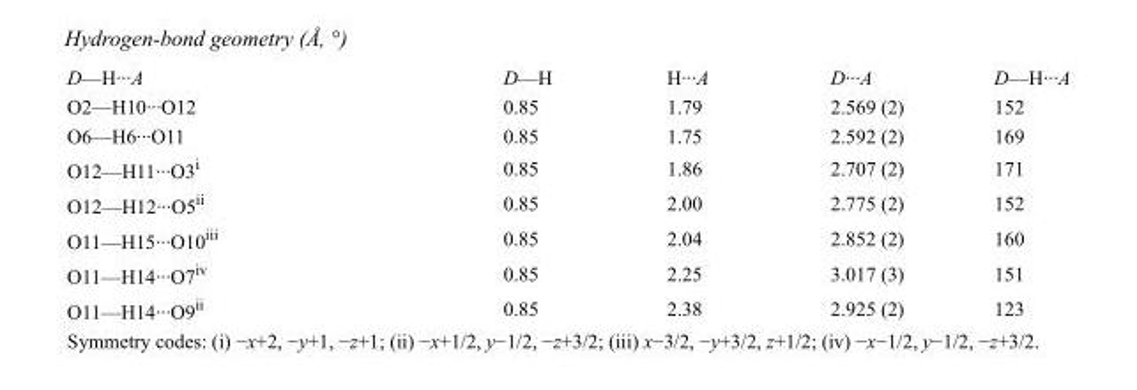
<table><tbody><tr><td>D—H···A</td><td>D—H</td><td>H···A</td><td>D···A</td><td>D—H···A</td></tr><tr><td>O2—H10···O12</td><td>0.85</td><td>1.79</td><td>2.569 (2)</td><td>152</td></tr><tr><td>O6—H6···O11</td><td>0.85</td><td>1.75</td><td>2.592 (2)</td><td>169</td></tr><tr><td>O12—H11···O3<sup>i</sup></td><td>0.85</td><td>1.86</td><td>2.707 (2)</td><td>171</td></tr><tr><td>O12—H12···O5<sup>ii</sup></td><td>0.85</td><td>2.00</td><td>2.775 (2)</td><td>152</td></tr><tr><td>O11—H15···O10<sup>iii</sup></td><td>0.85</td><td>2.04</td><td>2.852 (2)</td><td>160</td></tr><tr><td>O11—H14···O7<sup>iv</sup></td><td>0.85</td><td>2.25</td><td>3.017 (3)</td><td>151</td></tr><tr><td>O11—H14···O9<sup>ii</sup></td><td>0.85</td><td>2.38</td><td>2.925 (2)</td><td>123</td></tr></tbody></table>